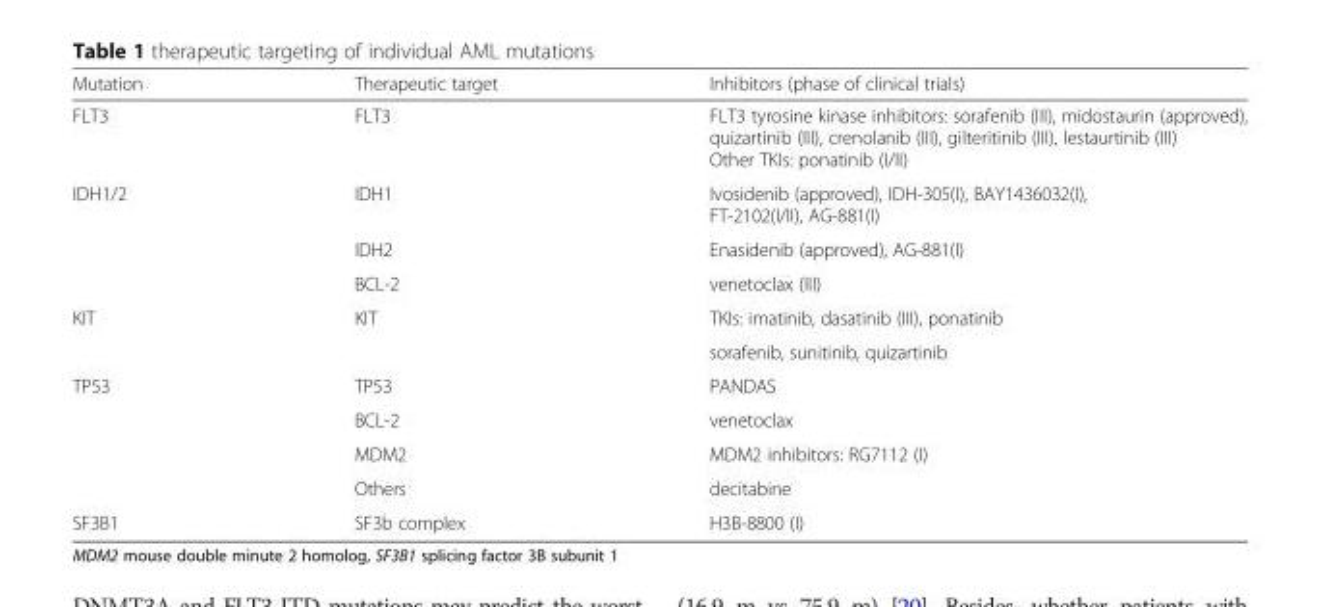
<table><thead><tr><td>Mutation</td><td>Therapeutic target</td><td>Inhibitors (phase of clinical trials)</td></tr></thead><tbody><tr><td>FLT3</td><td>FLT3</td><td>FLT3 tyrosine kinase inhibitors: sorafenib (III), midostaurin (approved), quizartinib (III), crenolanib (III), gilteritinib (III), lestaurtinib (III) Other TKIs: ponatinib (I/II)</td></tr><tr><td rowspan="3">IDH1/2</td><td>IDH1</td><td>Ivosidenib (approved), IDH-305(I), BAY1436032(I), FT-2102(I/II), AG-881(I)</td></tr><tr><td>IDH2</td><td>Enasidenib (approved), AG-881(I)</td></tr><tr><td>BCL-2</td><td>venetoclax (III)</td></tr><tr><td rowspan="2">KIT</td><td rowspan="2">KIT</td><td>TKIs: imatinib, dasatinib (III), ponatinib</td></tr><tr><td>sorafenib, sunitinib, quizartinib</td></tr><tr><td rowspan="4">TP53</td><td>TP53</td><td>PANDAS</td></tr><tr><td>BCL-2</td><td>venetoclax</td></tr><tr><td>MDM2</td><td>MDM2 inhibitors: RG7112 (I)</td></tr><tr><td>Others</td><td>decitabine</td></tr><tr><td>SF3B1</td><td>SF3b complex</td><td>H3B-8800 (I)</td></tr></tbody></table>